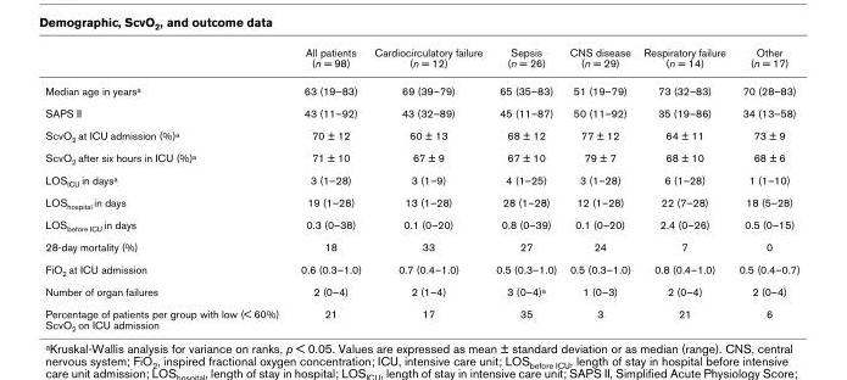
<table><thead><tr><td></td><td>All patients (n = 98)</td><td>Cardiocirculatory failure (n = 12)</td><td>Sepsis (n = 26)</td><td>CNS disease (n = 29)</td><td>Respiratory failure (n = 14)</td><td>Other (n = 17)</td></tr></thead><tbody><tr><td>Median age in years<sup>a</sup></td><td>63 (19–83)</td><td>69 (39–79)</td><td>65 (35–83)</td><td>51 (19–79)</td><td>73 (32–83)</td><td>70 (28–83)</td></tr><tr><td>SAPS II</td><td>43 (11–92)</td><td>43 (32–89)</td><td>45 (11–87)</td><td>50 (11–92)</td><td>35 (19–86)</td><td>34 (13–58)</td></tr><tr><td>ScvO<sub>2</sub> at ICU admission (%)<sup>a</sup></td><td>70 ± 12</td><td>60 ± 13</td><td>68 ± 12</td><td>77 ± 12</td><td>64 ± 11</td><td>73 ± 9</td></tr><tr><td>ScvO<sub>2</sub> after six hours in ICU (%)<sup>a</sup></td><td>71 ± 10</td><td>67 ± 9</td><td>67 ± 10</td><td>79 ± 7</td><td>68 ± 10</td><td>68 ± 6</td></tr><tr><td>LOS<sub>ICU</sub> in days<sup>a</sup></td><td>3 (1–28)</td><td>3 (1–9)</td><td>4 (1–25)</td><td>3 (1–28)</td><td>6 (1–28)</td><td>1 (1–10)</td></tr><tr><td>LOS<sub>hospital</sub> in days</td><td>19 (1–28)</td><td>13 (1–28)</td><td>28 (1–28)</td><td>12 (1–28)</td><td>22 (7–28)</td><td>18 (5–28)</td></tr><tr><td>LOS<sub>before ICU</sub> in days</td><td>0.3 (0–38)</td><td>0.1 (0–20)</td><td>0.8 (0–39)</td><td>0.1 (0–20)</td><td>2.4 (0–26)</td><td>0.5 (0–15)</td></tr><tr><td>28-day mortality (%)</td><td>18</td><td>33</td><td>27</td><td>24</td><td>7</td><td>0</td></tr><tr><td>FiO<sub>2</sub> at ICU admission</td><td>0.6 (0.3–1.0)</td><td>0.7 (0.4–1.0)</td><td>0.5 (0.3–1.0)</td><td>0.5 (0.3–1.0)</td><td>0.8 (0.4–1.0)</td><td>0.5 (0.4–0.7)</td></tr><tr><td>Number of organ failures</td><td>2 (0–4)</td><td>2 (1–4)</td><td>3 (0–4)<sup>a</sup></td><td>1 (0–3)</td><td>2 (0–4)</td><td>2 (0–4)</td></tr><tr><td>Percentage of patients per group with low (&lt; 60%) ScvO<sub>2</sub> on ICU admission</td><td>21</td><td>17</td><td>35</td><td>3</td><td>21</td><td>6</td></tr></tbody></table>